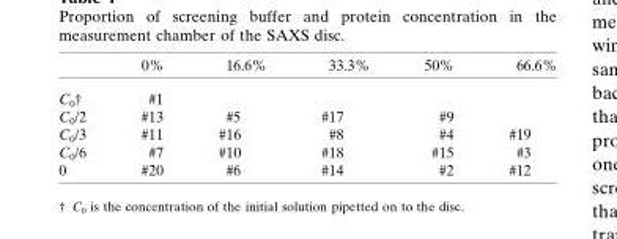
<table><thead><tr><td></td><td>0%</td><td>16.6%</td><td>33.3%</td><td>50%</td><td>66.6%</td></tr></thead><tbody><tr><td>C<sub>0</sub>†</td><td>#1</td><td></td><td></td><td></td><td></td></tr><tr><td>C<sub>0</sub>/2</td><td>#13</td><td>#5</td><td>#17</td><td>#9</td><td></td></tr><tr><td>C<sub>0</sub>/3</td><td>#11</td><td>#16</td><td>#8</td><td>#4</td><td>#19</td></tr><tr><td>C<sub>0</sub>/6</td><td>#7</td><td>#10</td><td>#18</td><td>#15</td><td>#3</td></tr><tr><td>0</td><td>#20</td><td>#6</td><td>#14</td><td>#2</td><td>#12</td></tr></tbody></table>